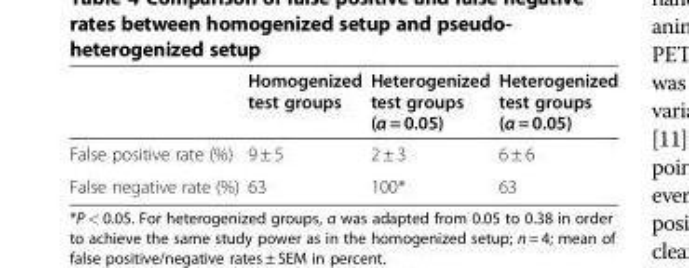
<table><thead><tr><td></td><td>Homogenized test groups</td><td>Heterogenized test groups (α = 0.05)</td><td>Heterogenized test groups (α = 0.05)</td></tr></thead><tbody><tr><td>False positive rate (%)</td><td>9 ± 5</td><td>2 ± 3</td><td>6 ± 6</td></tr><tr><td>False negative rate (%)</td><td>63</td><td>100*</td><td>63</td></tr></tbody></table>